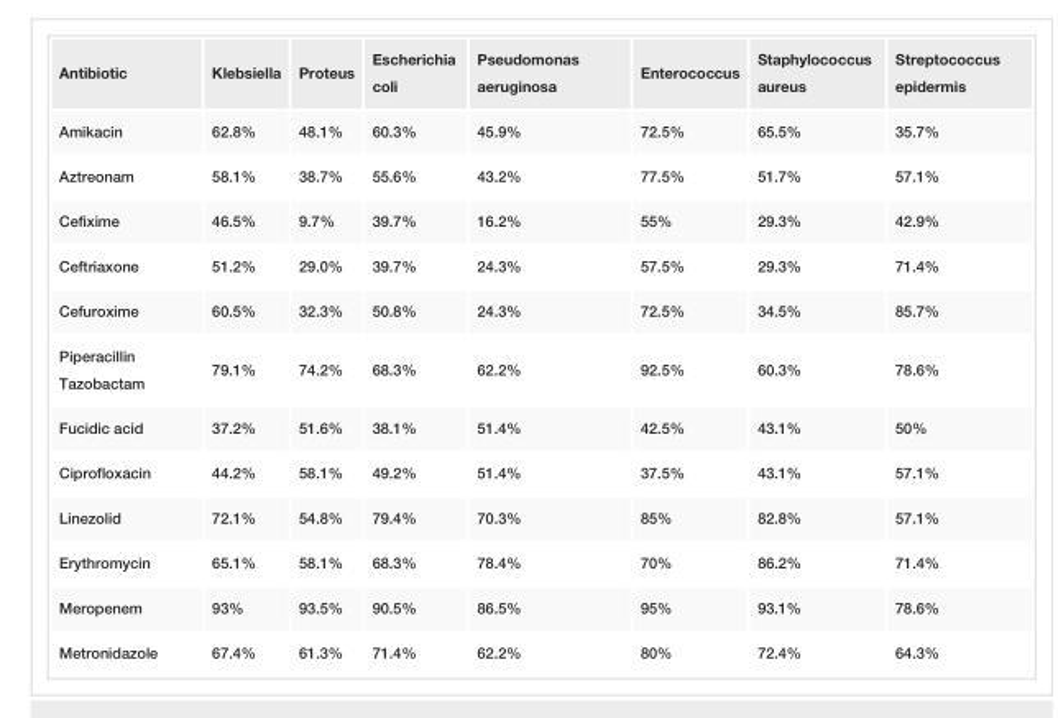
<table><tbody><tr><td>Antibiotic</td><td>Klebsiella</td><td>Proteus</td><td>Escherichia coli</td><td>Pseudomonas aeruginosa</td><td>Enterococcus</td><td>Staphylococcus aureus</td><td>Streptococcus epidermis</td></tr><tr><td>Amikacin</td><td>62.8%</td><td>48.1%</td><td>60.3%</td><td>45.9%</td><td>72.5%</td><td>65.5%</td><td>35.7%</td></tr><tr><td>Aztreonam</td><td>58.1%</td><td>38.7%</td><td>55.6%</td><td>43.2%</td><td>77.5%</td><td>51.7%</td><td>57.1%</td></tr><tr><td>Cefixime</td><td>46.5%</td><td>9.7%</td><td>39.7%</td><td>16.2%</td><td>55%</td><td>29.3%</td><td>42.9%</td></tr><tr><td>Ceftriaxone</td><td>51.2%</td><td>29.0%</td><td>39.7%</td><td>24.3%</td><td>57.5%</td><td>29.3%</td><td>71.4%</td></tr><tr><td>Cefuroxime</td><td>60.5%</td><td>32.3%</td><td>50.8%</td><td>24.3%</td><td>72.5%</td><td>34.5%</td><td>85.7%</td></tr><tr><td>Piperacillin Tazobactam</td><td>79.1%</td><td>74.2%</td><td>68.3%</td><td>62.2%</td><td>92.5%</td><td>60.3%</td><td>78.6%</td></tr><tr><td>Fucidic acid</td><td>37.2%</td><td>51.6%</td><td>38.1%</td><td>51.4%</td><td>42.5%</td><td>43.1%</td><td>50%</td></tr><tr><td>Ciprofloxacin</td><td>44.2%</td><td>58.1%</td><td>49.2%</td><td>51.4%</td><td>37.5%</td><td>43.1%</td><td>57.1%</td></tr><tr><td>Linezolid</td><td>72.1%</td><td>54.8%</td><td>79.4%</td><td>70.3%</td><td>85%</td><td>82.8%</td><td>57.1%</td></tr><tr><td>Erythromycin</td><td>65.1%</td><td>58.1%</td><td>68.3%</td><td>78.4%</td><td>70%</td><td>86.2%</td><td>71.4%</td></tr><tr><td>Meropenem</td><td>93%</td><td>93.5%</td><td>90.5%</td><td>86.5%</td><td>95%</td><td>93.1%</td><td>78.6%</td></tr><tr><td>Metronidazole</td><td>67.4%</td><td>61.3%</td><td>71.4%</td><td>62.2%</td><td>80%</td><td>72.4%</td><td>64.3%</td></tr></tbody></table>